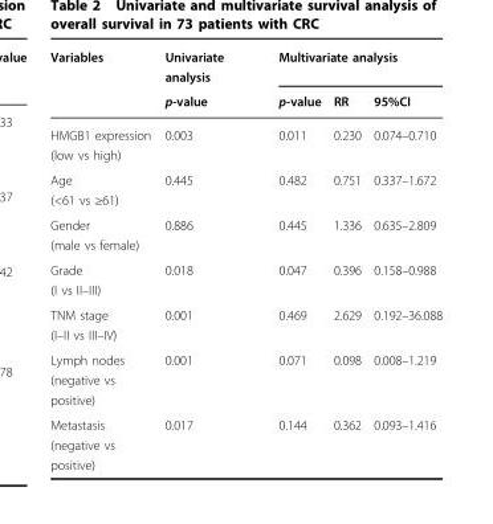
<table><thead><tr><td rowspan="2">Variables</td><td rowspan="2">Univariate analysis p-value</td><td colspan="3">Multivariate analysis</td></tr><tr><td>p-value</td><td>RR</td><td>95%CI</td></tr></thead><tbody><tr><td>HMGB1 expression (low vs high)</td><td>0.003</td><td>0.011</td><td>0.230</td><td>0.074–0.710</td></tr><tr><td>Age (&lt;61 vs ≥61)</td><td>0.445</td><td>0.482</td><td>0.751</td><td>0.337–1.672</td></tr><tr><td>Gender (male vs female)</td><td>0.886</td><td>0.445</td><td>1.336</td><td>0.635–2.809</td></tr><tr><td>Grade (I vs II–III)</td><td>0.018</td><td>0.047</td><td>0.396</td><td>0.158–0.988</td></tr><tr><td>TNM stage (I–II vs III–IV)</td><td>0.001</td><td>0.469</td><td>2.629</td><td>0.192–36.088</td></tr><tr><td>Lymph nodes (negative vs positive)</td><td>0.001</td><td>0.071</td><td>0.098</td><td>0.008–1.219</td></tr><tr><td>Metastasis (negative vs positive)</td><td>0.017</td><td>0.144</td><td>0.362</td><td>0.093–1.416</td></tr></tbody></table>